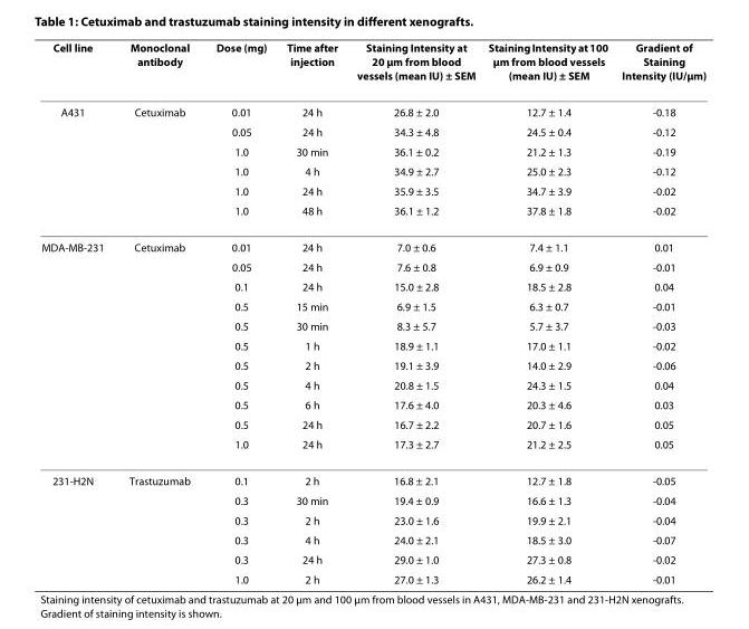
<table><thead><tr><td>Cell line</td><td>Monoclonal antibody</td><td>Dose (mg)</td><td>Time after injection</td><td>Staining Intensity at 20 μm from blood vessels (mean IU) ± SEM</td><td>Staining Intensity at 100 μm from blood vessels (mean IU) ± SEM</td><td>Gradient of Staining Intensity (IU/μm)</td></tr></thead><tbody><tr><td rowspan="6">A431</td><td>Cetuximab</td><td>0.01</td><td>24 h</td><td>26.8 ± 2.0</td><td>12.7 ± 1.4</td><td>-0.18</td></tr><tr><td></td><td>0.05</td><td>24 h</td><td>34.3 ± 4.8</td><td>24.5 ± 0.4</td><td>-0.12</td></tr><tr><td></td><td>1.0</td><td>30 min</td><td>36.1 ± 0.2</td><td>21.2 ± 1.3</td><td>-0.19</td></tr><tr><td></td><td>1.0</td><td>4 h</td><td>34.9 ± 2.7</td><td>25.0 ± 2.3</td><td>-0.12</td></tr><tr><td></td><td>1.0</td><td>24 h</td><td>35.9 ± 3.5</td><td>34.7 ± 3.9</td><td>-0.02</td></tr><tr><td></td><td>1.0</td><td>48 h</td><td>36.1 ± 1.2</td><td>37.8 ± 1.8</td><td>-0.02</td></tr><tr><td rowspan="11">MDA-MB-231</td><td>Cetuximab</td><td>0.01</td><td>24 h</td><td>7.0 ± 0.6</td><td>7.4 ± 1.1</td><td>0.01</td></tr><tr><td></td><td>0.05</td><td>24 h</td><td>7.6 ± 0.8</td><td>6.9 ± 0.9</td><td>-0.01</td></tr><tr><td></td><td>0.1</td><td>24 h</td><td>15.0 ± 2.8</td><td>18.5 ± 2.8</td><td>0.04</td></tr><tr><td></td><td>0.5</td><td>15 min</td><td>6.9 ± 1.5</td><td>6.3 ± 0.7</td><td>-0.01</td></tr><tr><td></td><td>0.5</td><td>30 min</td><td>8.3 ± 5.7</td><td>5.7 ± 3.7</td><td>-0.03</td></tr><tr><td></td><td>0.5</td><td>1 h</td><td>18.9 ± 1.1</td><td>17.0 ± 1.1</td><td>-0.02</td></tr><tr><td></td><td>0.5</td><td>2 h</td><td>19.1 ± 3.9</td><td>14.0 ± 2.9</td><td>-0.06</td></tr><tr><td></td><td>0.5</td><td>4 h</td><td>20.8 ± 1.5</td><td>24.3 ± 1.5</td><td>0.04</td></tr><tr><td></td><td>0.5</td><td>6 h</td><td>17.6 ± 4.0</td><td>20.3 ± 4.6</td><td>0.03</td></tr><tr><td></td><td>0.5</td><td>24 h</td><td>16.7 ± 2.2</td><td>20.7 ± 1.6</td><td>0.05</td></tr><tr><td></td><td>1.0</td><td>24 h</td><td>17.3 ± 2.7</td><td>21.2 ± 2.5</td><td>0.05</td></tr><tr><td rowspan="6">231-H2N</td><td>Trastuzumab</td><td>0.1</td><td>2 h</td><td>16.8 ± 2.1</td><td>12.7 ± 1.8</td><td>-0.05</td></tr><tr><td></td><td>0.3</td><td>30 min</td><td>19.4 ± 0.9</td><td>16.6 ± 1.3</td><td>-0.04</td></tr><tr><td></td><td>0.3</td><td>2 h</td><td>23.0 ± 1.6</td><td>19.9 ± 2.1</td><td>-0.04</td></tr><tr><td></td><td>0.3</td><td>4 h</td><td>24.0 ± 2.1</td><td>18.5 ± 3.0</td><td>-0.07</td></tr><tr><td></td><td>0.3</td><td>24 h</td><td>29.0 ± 1.0</td><td>27.3 ± 0.8</td><td>-0.02</td></tr><tr><td></td><td>1.0</td><td>2 h</td><td>27.0 ± 1.3</td><td>26.2 ± 1.4</td><td>-0.01</td></tr></tbody></table>